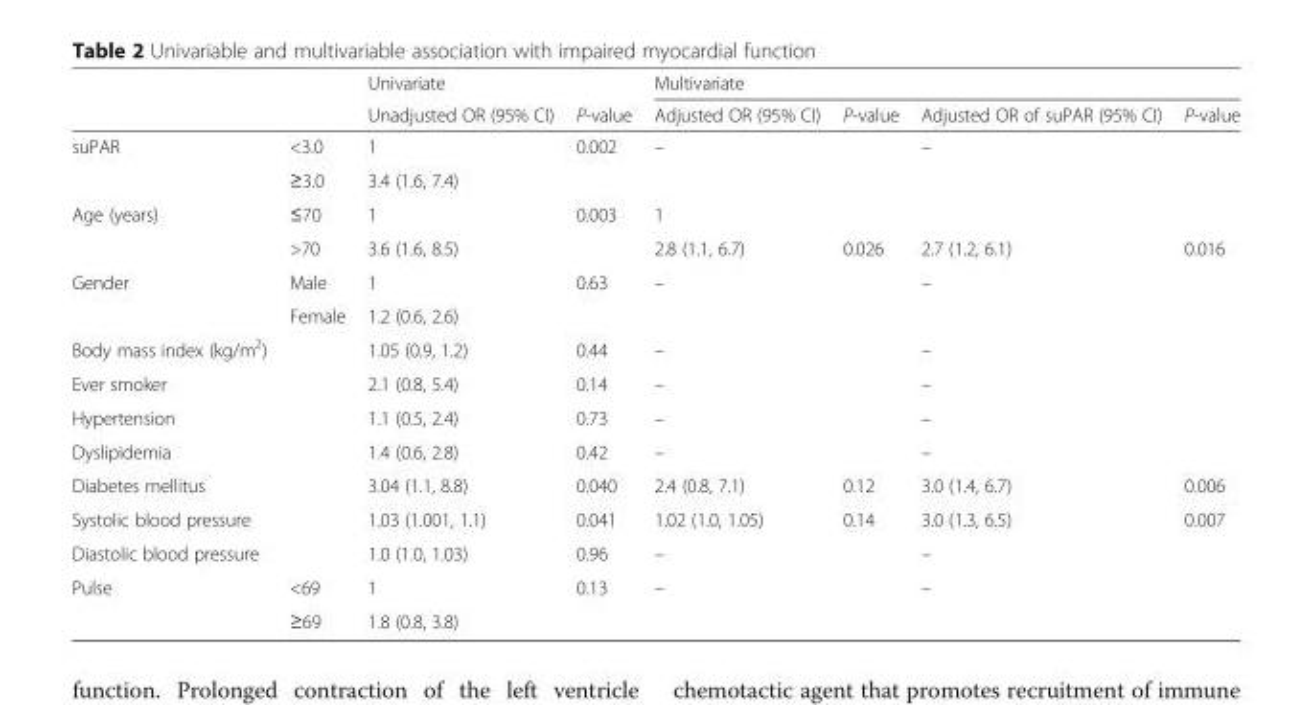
<table><thead><tr><td rowspan="2"></td><td rowspan="2"></td><td rowspan="2">Univariate Unadjusted OR (95% CI)</td><td rowspan="2">P-value</td><td colspan="4">Multivariate</td></tr><tr><td>Adjusted OR (95% CI)</td><td>P-value</td><td>Adjusted OR of suPAR (95% CI)</td><td>P-value</td></tr></thead><tbody><tr><td rowspan="2">suPAR</td><td>&lt;3.0</td><td>1</td><td>0.002</td><td>–</td><td></td><td>–</td><td></td></tr><tr><td>≥3.0</td><td>3.4 (1.6, 7.4)</td><td></td><td></td><td></td><td></td><td></td></tr><tr><td rowspan="2">Age (years)</td><td>≤70</td><td>1</td><td>0.003</td><td>1</td><td></td><td></td><td></td></tr><tr><td>&gt;70</td><td>3.6 (1.6, 8.5)</td><td></td><td>2.8 (1.1, 6.7)</td><td>0.026</td><td>2.7 (1.2, 6.1)</td><td>0.016</td></tr><tr><td rowspan="2">Gender</td><td>Male</td><td>1</td><td>0.63</td><td>–</td><td></td><td>–</td><td></td></tr><tr><td>Female</td><td>1.2 (0.6, 2.6)</td><td></td><td></td><td></td><td></td><td></td></tr><tr><td>Body mass index (kg/m<sup>2</sup>)</td><td></td><td>1.05 (0.9, 1.2)</td><td>0.44</td><td>–</td><td></td><td>–</td><td></td></tr><tr><td>Ever smoker</td><td></td><td>2.1 (0.8, 5.4)</td><td>0.14</td><td>–</td><td></td><td>–</td><td></td></tr><tr><td>Hypertension</td><td></td><td>1.1 (0.5, 2.4)</td><td>0.73</td><td>–</td><td></td><td>–</td><td></td></tr><tr><td>Dyslipidemia</td><td></td><td>1.4 (0.6, 2.8)</td><td>0.42</td><td>–</td><td></td><td>–</td><td></td></tr><tr><td>Diabetes mellitus</td><td></td><td>3.04 (1.1, 8.8)</td><td>0.040</td><td>2.4 (0.8, 7.1)</td><td>0.12</td><td>3.0 (1.4, 6.7)</td><td>0.006</td></tr><tr><td>Systolic blood pressure</td><td></td><td>1.03 (1.001, 1.1)</td><td>0.041</td><td>1.02 (1.0, 1.05)</td><td>0.14</td><td>3.0 (1.3, 6.5)</td><td>0.007</td></tr><tr><td>Diastolic blood pressure</td><td></td><td>1.0 (1.0, 1.03)</td><td>0.96</td><td>–</td><td></td><td>–</td><td></td></tr><tr><td rowspan="2">Pulse</td><td>&lt;69</td><td>1</td><td>0.13</td><td>–</td><td></td><td>–</td><td></td></tr><tr><td>≥69</td><td>1.8 (0.8, 3.8)</td><td></td><td></td><td></td><td></td><td></td></tr></tbody></table>